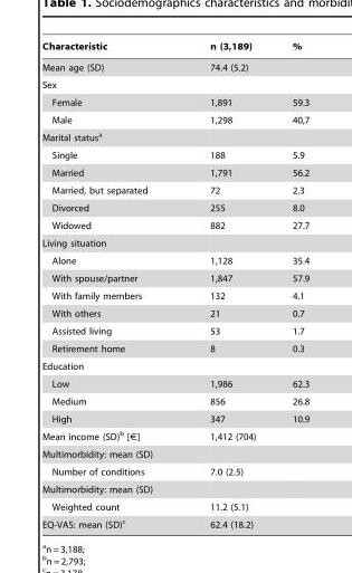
<table><thead><tr><td>Characteristic</td><td>n (3,189)</td><td>%</td></tr></thead><tbody><tr><td>Mean age (SD)</td><td>74.4 (5.2)</td><td></td></tr><tr><td colspan="3">Sex</td></tr><tr><td>Female</td><td>1,891</td><td>59.3</td></tr><tr><td>Male</td><td>1,298</td><td>40,7</td></tr><tr><td colspan="3">Marital status<sup>a</sup></td></tr><tr><td>Single</td><td>188</td><td>5.9</td></tr><tr><td>Married</td><td>1,791</td><td>56.2</td></tr><tr><td>Married, but separated</td><td>72</td><td>2.3</td></tr><tr><td>Divorced</td><td>255</td><td>8.0</td></tr><tr><td>Widowed</td><td>882</td><td>27.7</td></tr><tr><td colspan="3">Living situation</td></tr><tr><td>Alone</td><td>1,128</td><td>35.4</td></tr><tr><td>With spouse/partner</td><td>1,847</td><td>57.9</td></tr><tr><td>With family members</td><td>132</td><td>4.1</td></tr><tr><td>With others</td><td>21</td><td>0.7</td></tr><tr><td>Assisted living</td><td>53</td><td>1.7</td></tr><tr><td>Retirement home</td><td>8</td><td>0.3</td></tr><tr><td colspan="3">Education</td></tr><tr><td>Low</td><td>1,986</td><td>62.3</td></tr><tr><td>Medium</td><td>856</td><td>26.8</td></tr><tr><td>High</td><td>347</td><td>10.9</td></tr><tr><td>Mean income (SD)<sup>b</sup> [€]</td><td>1,412 (704)</td><td></td></tr><tr><td colspan="3">Multimorbidity: mean (SD)</td></tr><tr><td>Number of conditions</td><td>7.0 (2.5)</td><td></td></tr><tr><td colspan="3">Multimorbidity: mean (SD)</td></tr><tr><td>Weighted count</td><td>11.2 (5.1)</td><td></td></tr><tr><td>EQ-VAS: mean (SD)<sup>c</sup></td><td>62.4 (18.2)</td><td></td></tr></tbody></table>